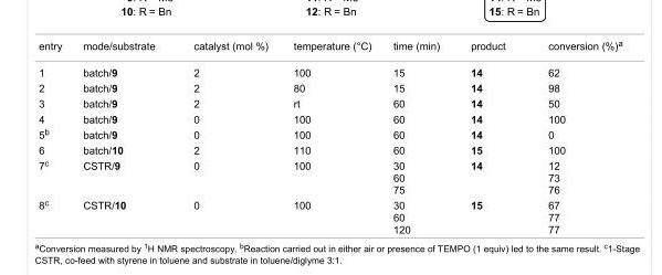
<table><tbody><tr><td>entry</td><td>mode/substrate</td><td>catalyst (mol %)</td><td>temperature (°C)</td><td>time (min)</td><td>product</td><td>conversion (%)<sup>a</sup></td></tr><tr><td>1</td><td>batch/9</td><td>2</td><td>100</td><td>15</td><td>14</td><td>62</td></tr><tr><td>2</td><td>batch/9</td><td>2</td><td>80</td><td>15</td><td>14</td><td>98</td></tr><tr><td>3</td><td>batch/9</td><td>2</td><td>rt</td><td>60</td><td>14</td><td>50</td></tr><tr><td>4</td><td>batch/9</td><td>0</td><td>100</td><td>60</td><td>14</td><td>100</td></tr><tr><td>5<sup>b</sup></td><td>batch/9</td><td>0</td><td>100</td><td>60</td><td>14</td><td>0</td></tr><tr><td>6</td><td>batch/10</td><td>2</td><td>110</td><td>60</td><td>15</td><td>100</td></tr><tr><td>7<sup>c</sup></td><td>CSTR/9</td><td>0</td><td>100</td><td>30 60 75</td><td>14</td><td>12 73 76</td></tr><tr><td>8<sup>c</sup></td><td>CSTR/10</td><td>0</td><td>100</td><td>30 60 120</td><td>15</td><td>67 77 77</td></tr></tbody></table>